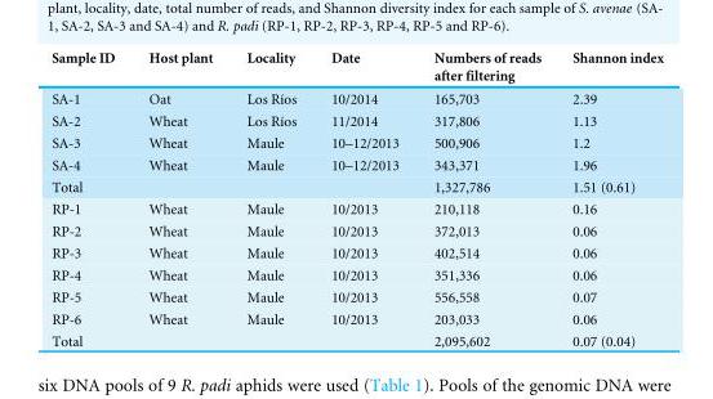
<table><thead><tr><td>Sample ID</td><td>Host plant</td><td>Locality</td><td>Date</td><td>Numbers of reads after filtering</td><td>Shannon index</td></tr></thead><tbody><tr><td>;SA-1</td><td>Oat</td><td>Los Ríos</td><td>10/2014</td><td>165,703</td><td>2.39</td></tr><tr><td>;SA-2</td><td>Wheat</td><td>Los Ríos</td><td>11/2014</td><td>317,806</td><td>1.13</td></tr><tr><td>;SA-3</td><td>Wheat</td><td>Maule</td><td>10–12/2013</td><td>500,906</td><td>1.2</td></tr><tr><td>;SA-4</td><td>Wheat</td><td>Maule</td><td>10–12/2013</td><td>343,371</td><td>1.96</td></tr><tr><td>;Total</td><td></td><td></td><td></td><td>1,327,786</td><td>1.51 (0.61)</td></tr><tr><td>;RP-1</td><td>Wheat</td><td>Maule</td><td>10/2013</td><td>210,118</td><td>0.16</td></tr><tr><td>;RP-2</td><td>Wheat</td><td>Maule</td><td>10/2013</td><td>372,013</td><td>0.06</td></tr><tr><td>;RP-3</td><td>Wheat</td><td>Maule</td><td>10/2013</td><td>402,514</td><td>0.06</td></tr><tr><td>;RP-4</td><td>Wheat</td><td>Maule</td><td>10/2013</td><td>351,336</td><td>0.06</td></tr><tr><td>;RP-5</td><td>Wheat</td><td>Maule</td><td>10/2013</td><td>556,558</td><td>0.07</td></tr><tr><td>;RP-6</td><td>Wheat</td><td>Maule</td><td>10/2013</td><td>203,033</td><td>0.06</td></tr><tr><td>;Total</td><td></td><td></td><td></td><td>2,095,602</td><td>0.07 (0.04)</td></tr></tbody></table>